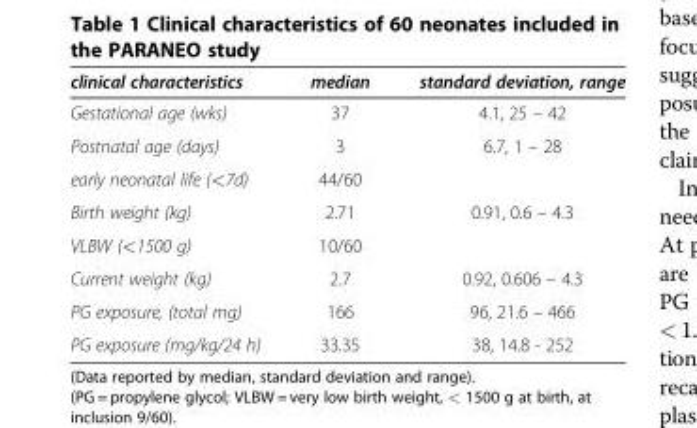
<table><thead><tr><td>clinical characteristics</td><td>median</td><td>standard deviation, range</td></tr></thead><tbody><tr><td>Gestational age (wks)</td><td>37</td><td>4.1, 25 – 42</td></tr><tr><td>Postnatal age (days)</td><td>3</td><td>6.7, 1 – 28</td></tr><tr><td>early neonatal life (&lt;7d)</td><td>44/60</td><td></td></tr><tr><td>Birth weight (kg)</td><td>2.71</td><td>0.91, 0.6 – 4.3</td></tr><tr><td>VLBW (&lt;1500 g)</td><td>10/60</td><td></td></tr><tr><td>Current weight (kg)</td><td>2.7</td><td>0.92, 0.606 – 4.3</td></tr><tr><td>PG exposure, (total mg)</td><td>166</td><td>96, 21.6 – 466</td></tr><tr><td>PG exposure (mg/kg/24 h)</td><td>33.35</td><td>38, 14.8 - 252</td></tr></tbody></table>